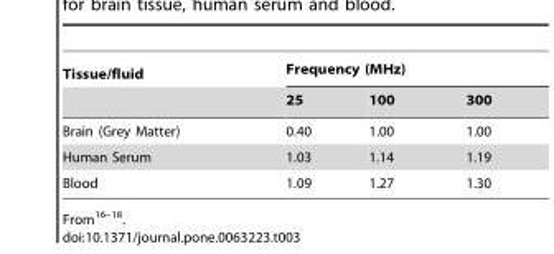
<table><thead><tr><td rowspan="2">Tissue/fluid</td><td colspan="3">Frequency (MHz)</td></tr><tr><td>25</td><td>100</td><td>300</td></tr></thead><tbody><tr><td>Brain (Grey Matter)</td><td>0.40</td><td>1.00</td><td>1.00</td></tr><tr><td>Human Serum</td><td>1.03</td><td>1.14</td><td>1.19</td></tr><tr><td>Blood</td><td>1.09</td><td>1.27</td><td>1.30</td></tr></tbody></table>